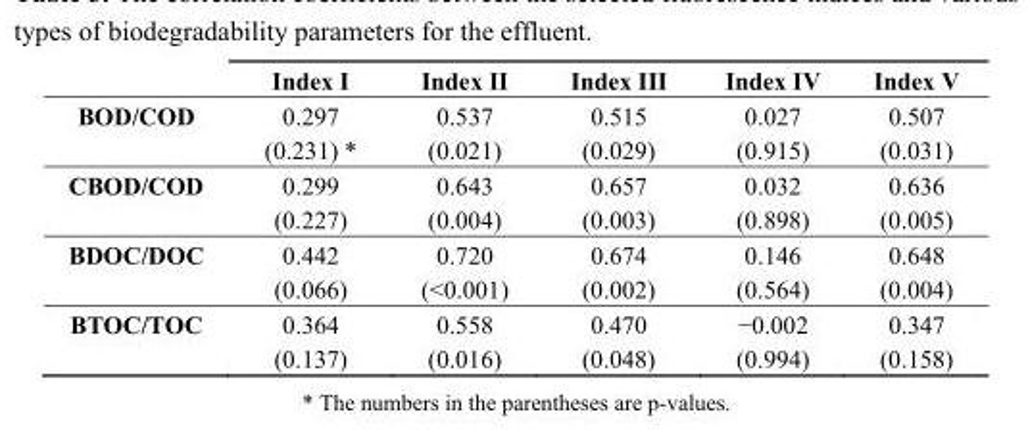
<table><thead><tr><td></td><td>Index I</td><td>Index II</td><td>Index III</td><td>Index IV</td><td>Index V</td></tr></thead><tbody><tr><td>BOD/COD</td><td>0.297 (0.231) *</td><td>0.537 (0.021)</td><td>0.515 (0.029)</td><td>0.027 (0.915)</td><td>0.507 (0.031)</td></tr><tr><td>CBOD/COD</td><td>0.299 (0.227)</td><td>0.643 (0.004)</td><td>0.657 (0.003)</td><td>0.032 (0.898)</td><td>0.636 (0.005)</td></tr><tr><td>BDOC/DOC</td><td>0.442 (0.066)</td><td>0.720 (&lt;0.001)</td><td>0.674 (0.002)</td><td>0.146 (0.564)</td><td>0.648 (0.004)</td></tr><tr><td>BTOC/TOC</td><td>0.364 (0.137)</td><td>0.558 (0.016)</td><td>0.470 (0.048)</td><td>−0.002 (0.994)</td><td>0.347 (0.158)</td></tr></tbody></table>